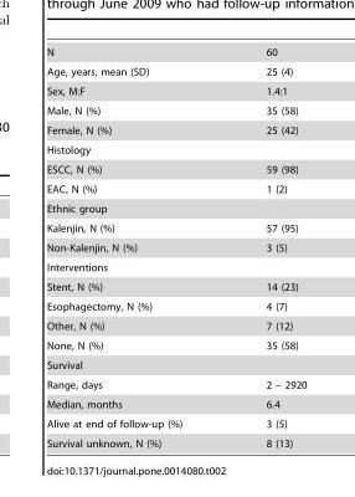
<table><tbody><tr><td>N</td><td>60</td></tr><tr><td>Age, years, mean (SD)</td><td>25 (4)</td></tr><tr><td>Sex, M:F</td><td>1.4:1</td></tr><tr><td>Male, N (%)</td><td>35 (58)</td></tr><tr><td>Female, N (%)</td><td>25 (42)</td></tr><tr><td colspan="2">Histology</td></tr><tr><td>ESCC, N (%)</td><td>59 (98)</td></tr><tr><td>EAC, N (%)</td><td>1 (2)</td></tr><tr><td colspan="2">Ethnic group</td></tr><tr><td>Kalenjin, N (%)</td><td>57 (95)</td></tr><tr><td>Non-Kalenjin, N (%)</td><td>3 (5)</td></tr><tr><td colspan="2">Interventions</td></tr><tr><td>Stent, N (%)</td><td>14 (23)</td></tr><tr><td>Esophagectomy, N (%)</td><td>4 (7)</td></tr><tr><td>Other, N (%)</td><td>7 (12)</td></tr><tr><td>None, N (%)</td><td>35 (58)</td></tr><tr><td colspan="2">Survival</td></tr><tr><td>Range, days</td><td>2 – 2920</td></tr><tr><td>Median, months</td><td>6.4</td></tr><tr><td>Alive at end of follow-up (%)</td><td>3 (5)</td></tr><tr><td>Survival unknown, N (%)</td><td>8 (13)</td></tr></tbody></table>